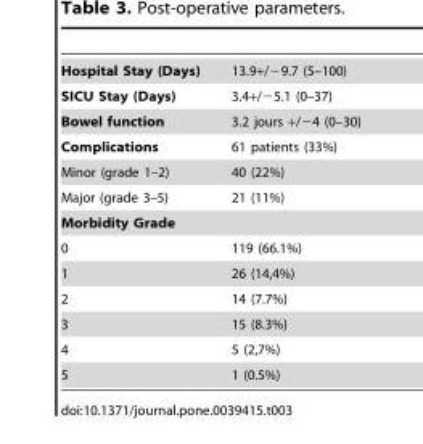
<table><tbody><tr><td>Hospital Stay (Days)</td><td>13.9+/−9.7 (5–100)</td></tr><tr><td>SICU Stay (Days)</td><td>3.4+/−5.1 (0–37)</td></tr><tr><td>Bowel function</td><td>3.2 jours +/−4 (0–30)</td></tr><tr><td>Complications</td><td>61 patients (33%)</td></tr><tr><td>Minor (grade 1–2)</td><td>40 (22%)</td></tr><tr><td>Major (grade 3–5)</td><td>21 (11%)</td></tr><tr><td colspan="2">Morbidity Grade</td></tr><tr><td>0</td><td>119 (66.1%)</td></tr><tr><td>1</td><td>26 (14,4%)</td></tr><tr><td>2</td><td>14 (7.7%)</td></tr><tr><td>3</td><td>15 (8.3%)</td></tr><tr><td>4</td><td>5 (2,7%)</td></tr><tr><td>5</td><td>1 (0.5%)</td></tr></tbody></table>